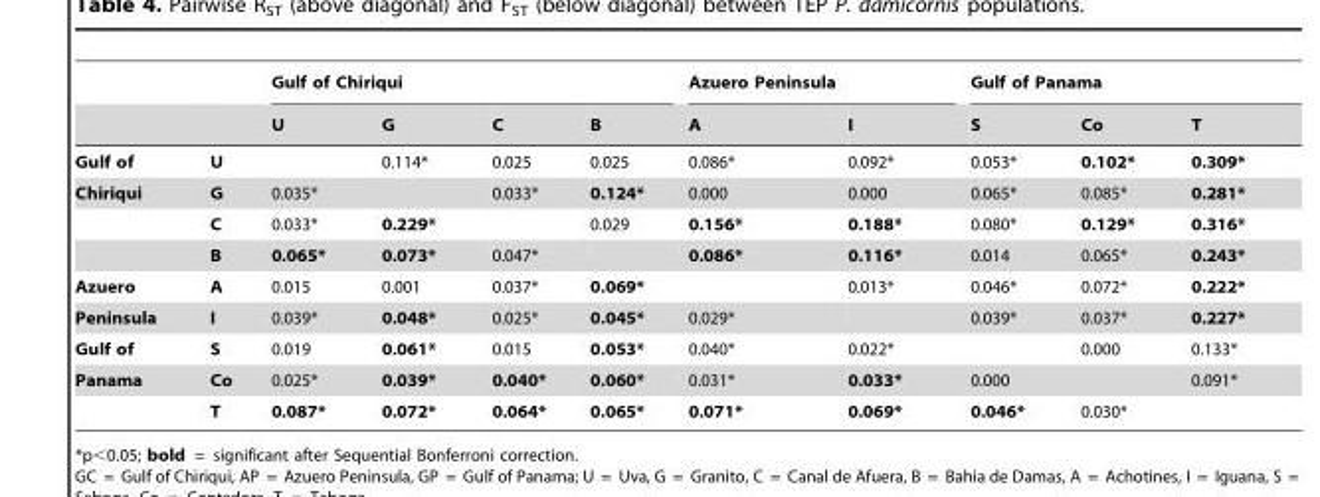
<table><thead><tr><td rowspan="2"></td><td rowspan="2"></td><td colspan="4">Gulf of Chiriqui</td><td colspan="2">Azuero Peninsula</td><td colspan="3">Gulf of Panama</td></tr><tr><td>U</td><td>G</td><td>C</td><td>B</td><td>A</td><td>I</td><td>S</td><td>Co</td><td>T</td></tr></thead><tbody><tr><td>Gulf of</td><td>U</td><td></td><td>0.114*</td><td>0.025</td><td>0.025</td><td>0.086*</td><td>0.092*</td><td>0.053*</td><td>0.102*</td><td>0.309*</td></tr><tr><td rowspan="3">Chiriqui</td><td>G</td><td>0.035*</td><td></td><td>0.033*</td><td>0.124*</td><td>0.000</td><td>0.000</td><td>0.065*</td><td>0.085*</td><td>0.281*</td></tr><tr><td>C</td><td>0.033*</td><td>0.229*</td><td></td><td>0.029</td><td>0.156*</td><td>0.188*</td><td>0.080*</td><td>0.129*</td><td>0.316*</td></tr><tr><td>B</td><td>0.065*</td><td>0.073*</td><td>0.047*</td><td></td><td>0.086*</td><td>0.116*</td><td>0.014</td><td>0.065*</td><td>0.243*</td></tr><tr><td>Azuero</td><td>A</td><td>0.015</td><td>0.001</td><td>0.037*</td><td>0.069*</td><td></td><td>0.013*</td><td>0.046*</td><td>0.072*</td><td>0.222*</td></tr><tr><td>Peninsula</td><td>I</td><td>0.039*</td><td>0.048*</td><td>0.025*</td><td>0.045*</td><td>0.029*</td><td></td><td>0.039*</td><td>0.037*</td><td>0.227*</td></tr><tr><td>Gulf of</td><td>S</td><td>0.019</td><td>0.061*</td><td>0.015</td><td>0.053*</td><td>0.040*</td><td>0.022*</td><td></td><td>0.000</td><td>0.133*</td></tr><tr><td rowspan="2">Panama</td><td>Co</td><td>0.025*</td><td>0.039*</td><td>0.040*</td><td>0.060*</td><td>0.031*</td><td>0.033*</td><td>0.000</td><td></td><td>0.091*</td></tr><tr><td>T</td><td>0.087*</td><td>0.072*</td><td>0.064*</td><td>0.065*</td><td>0.071*</td><td>0.069*</td><td>0.046*</td><td>0.030*</td><td></td></tr></tbody></table>